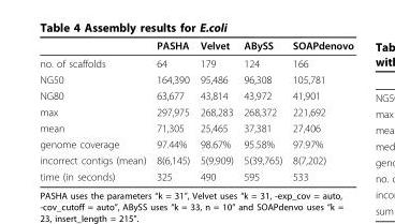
<table><thead><tr><td></td><td>PASHA</td><td>Velvet</td><td>ABySS</td><td>SOAPdenovo</td></tr></thead><tbody><tr><td>no. of scaffolds</td><td>64</td><td>179</td><td>124</td><td>166</td></tr><tr><td>NG50</td><td>164,390</td><td>95,486</td><td>96,308</td><td>105,781</td></tr><tr><td>NG80</td><td>63,677</td><td>43,814</td><td>43,972</td><td>41,901</td></tr><tr><td>max</td><td>297,975</td><td>268,283</td><td>268,372</td><td>221,692</td></tr><tr><td>mean</td><td>71,305</td><td>25,465</td><td>37,381</td><td>27,406</td></tr><tr><td>genome coverage</td><td>97.44%</td><td>98.67%</td><td>95.58%</td><td>97.97%</td></tr><tr><td>incorrect contigs (mean)</td><td>8(6,145)</td><td>5(9,909)</td><td>5(39,765)</td><td>8(7,202)</td></tr><tr><td>time (in seconds)</td><td>325</td><td>490</td><td>595</td><td>533</td></tr></tbody></table>